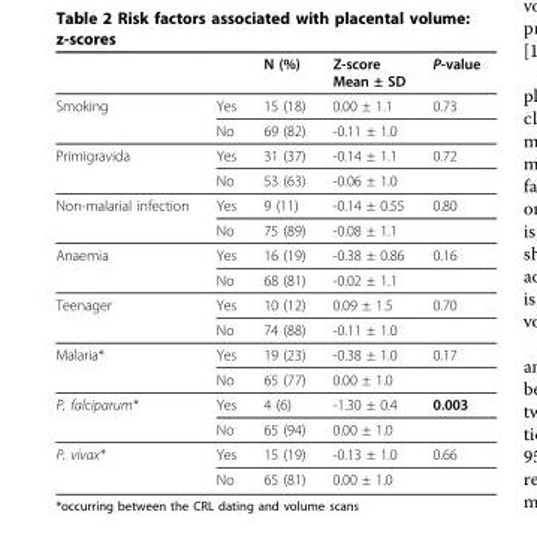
<table><thead><tr><td></td><td></td><td>N (%)</td><td>Z-score Mean ± SD</td><td>P-value</td></tr></thead><tbody><tr><td rowspan="2">Smoking</td><td>Yes</td><td>15 (18)</td><td>0.00 ± 1.1</td><td>0.73</td></tr><tr><td>No</td><td>69 (82)</td><td>-0.11 ± 1.0</td><td></td></tr><tr><td rowspan="2">Primigravida</td><td>Yes</td><td>31 (37)</td><td>-0.14 ± 1.1</td><td>0.72</td></tr><tr><td>No</td><td>53 (63)</td><td>-0.06 ± 1.0</td><td></td></tr><tr><td rowspan="2">Non-malarial infection</td><td>Yes</td><td>9 (11)</td><td>-0.14 ± 0.55</td><td>0.80</td></tr><tr><td>No</td><td>75 (89)</td><td>-0.08 ± 1.1</td><td></td></tr><tr><td rowspan="2">Anaemia</td><td>Yes</td><td>16 (19)</td><td>-0.38 ± 0.86</td><td>0.16</td></tr><tr><td>No</td><td>68 (81)</td><td>-0.02 ± 1.1</td><td></td></tr><tr><td rowspan="2">Teenager</td><td>Yes</td><td>10 (12)</td><td>0.09 ± 1.5</td><td>0.70</td></tr><tr><td>No</td><td>74 (88)</td><td>-0.11 ± 1.0</td><td></td></tr><tr><td rowspan="2">Malaria*</td><td>Yes</td><td>19 (23)</td><td>-0.38 ± 1.0</td><td>0.17</td></tr><tr><td>No</td><td>65 (77)</td><td>0.00 ± 1.0</td><td></td></tr><tr><td rowspan="2">P. falciparum*</td><td>Yes</td><td>4 (6)</td><td>-1.30 ± 0.4</td><td>0.003</td></tr><tr><td>No</td><td>65 (94)</td><td>0.00 ± 1.0</td><td></td></tr><tr><td rowspan="2">P. vivax*</td><td>Yes</td><td>15 (19)</td><td>-0.13 ± 1.0</td><td>0.66</td></tr><tr><td>No</td><td>65 (81)</td><td>0.00 ± 1.0</td><td></td></tr></tbody></table>